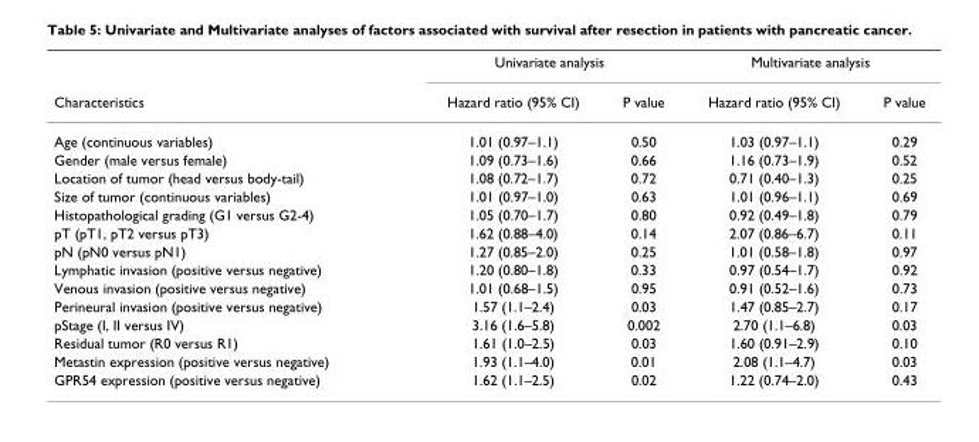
<table><thead><tr><td rowspan="2">Characteristics</td><td colspan="2">Univariate analysis</td><td colspan="2">Multivariate analysis</td></tr><tr><td>Hazard ratio (95% CI)</td><td>P value</td><td>Hazard ratio (95% CI)</td><td>P value</td></tr></thead><tbody><tr><td>Age (continuous variables)</td><td>1.01 (0.97–1.1)</td><td>0.50</td><td>1.03 (0.97–1.1)</td><td>0.29</td></tr><tr><td>Gender (male versus female)</td><td>1.09 (0.73–1.6)</td><td>0.66</td><td>1.16 (0.73–1.9)</td><td>0.52</td></tr><tr><td>Location of tumor (head versus body-tail)</td><td>1.08 (0.72–1.7)</td><td>0.72</td><td>0.71 (0.40–1.3)</td><td>0.25</td></tr><tr><td>Size of tumor (continuous variables)</td><td>1.01 (0.97–1.0)</td><td>0.63</td><td>1.01 (0.96–1.1)</td><td>0.69</td></tr><tr><td>Histopathological grading (G1 versus G2-4)</td><td>1.05 (0.70–1.7)</td><td>0.80</td><td>0.92 (0.49–1.8)</td><td>0.79</td></tr><tr><td>pT (pT1, pT2 versus pT3)</td><td>1.62 (0.88–4.0)</td><td>0.14</td><td>2.07 (0.86–6.7)</td><td>0.11</td></tr><tr><td>pN (pN0 versus pN1)</td><td>1.27 (0.85–2.0)</td><td>0.25</td><td>1.01 (0.58–1.8)</td><td>0.97</td></tr><tr><td>Lymphatic invasion (positive versus negative)</td><td>1.20 (0.80–1.8)</td><td>0.33</td><td>0.97 (0.54–1.7)</td><td>0.92</td></tr><tr><td>Venous invasion (positive versus negative)</td><td>1.01 (0.68–1.5)</td><td>0.95</td><td>0.91 (0.52–1.6)</td><td>0.73</td></tr><tr><td>Perineural invasion (positive versus negative)</td><td>1.57 (1.1–2.4)</td><td>0.03</td><td>1.47 (0.85–2.7)</td><td>0.17</td></tr><tr><td>pStage (I, II versus IV)</td><td>3.16 (1.6–5.8)</td><td>0.002</td><td>2.70 (1.1–6.8)</td><td>0.03</td></tr><tr><td>Residual tumor (R0 versus R1)</td><td>1.61 (1.0–2.5)</td><td>0.03</td><td>1.60 (0.91–2.9)</td><td>0.10</td></tr><tr><td>Metastin expression (positive versus negative)</td><td>1.93 (1.1–4.0)</td><td>0.01</td><td>2.08 (1.1–4.7)</td><td>0.03</td></tr><tr><td>GPR54 expression (positive versus negative)</td><td>1.62 (1.1–2.5)</td><td>0.02</td><td>1.22 (0.74–2.0)</td><td>0.43</td></tr></tbody></table>